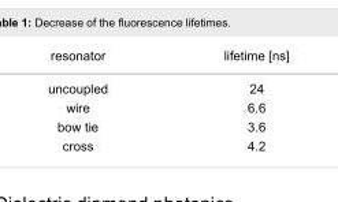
<table><tbody><tr><td>resonator</td><td>lifetime [ns]</td></tr><tr><td>uncoupled</td><td>24</td></tr><tr><td>wire</td><td>6.6</td></tr><tr><td>bow tie</td><td>3.6</td></tr><tr><td>cross</td><td>4.2</td></tr></tbody></table>